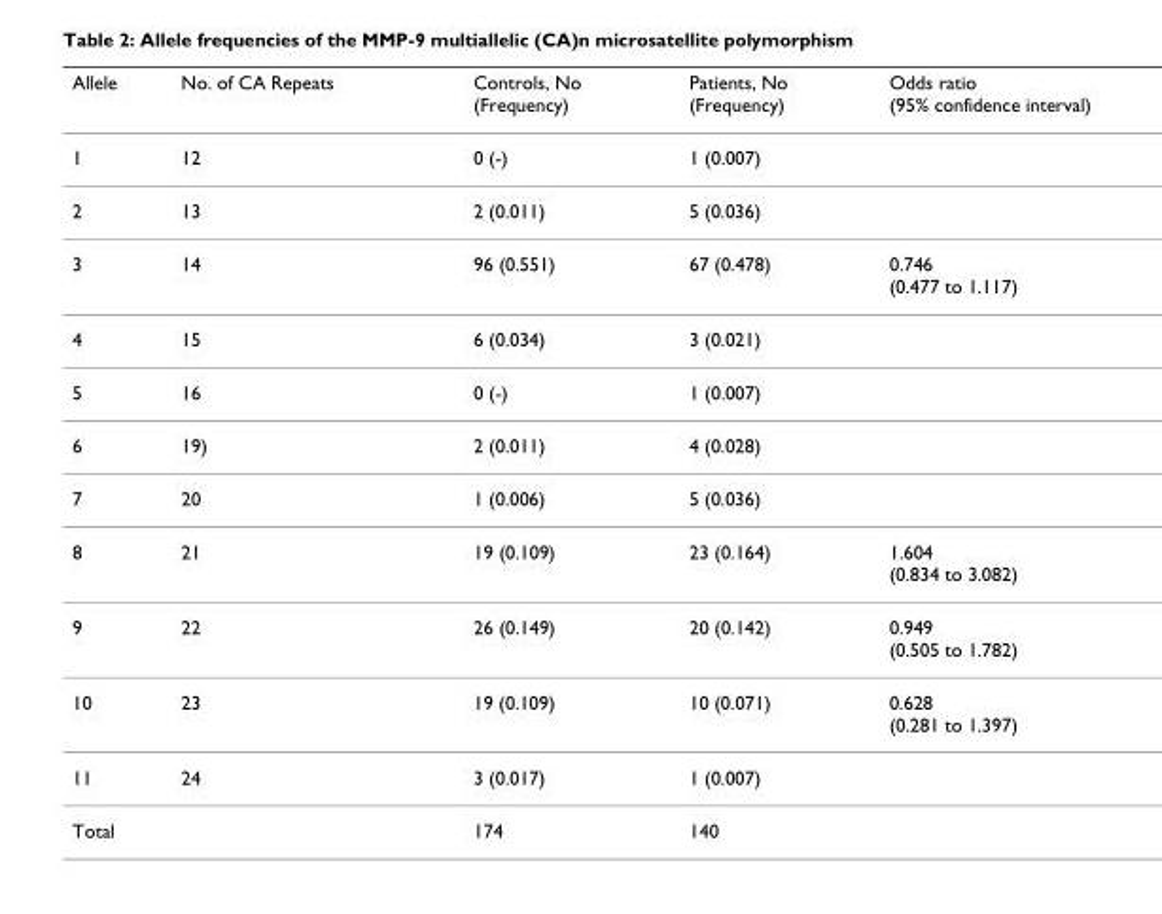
<table><thead><tr><td>Allele</td><td>No. of CA Repeats</td><td>Controls, No (Frequency)</td><td>Patients, No (Frequency)</td><td>Odds ratio (95% confidence interval)</td></tr></thead><tbody><tr><td>1</td><td>12</td><td>0 (-)</td><td>1 (0.007)</td><td></td></tr><tr><td>2</td><td>13</td><td>2 (0.011)</td><td>5 (0.036)</td><td></td></tr><tr><td>3</td><td>14</td><td>96 (0.551)</td><td>67 (0.478)</td><td>0.746 (0.477 to 1.117)</td></tr><tr><td>4</td><td>15</td><td>6 (0.034)</td><td>3 (0.021)</td><td></td></tr><tr><td>5</td><td>16</td><td>0 (-)</td><td>1 (0.007)</td><td></td></tr><tr><td>6</td><td>19)</td><td>2 (0.011)</td><td>4 (0.028)</td><td></td></tr><tr><td>7</td><td>20</td><td>1 (0.006)</td><td>5 (0.036)</td><td></td></tr><tr><td>8</td><td>21</td><td>19 (0.109)</td><td>23 (0.164)</td><td>1.604 (0.834 to 3.082)</td></tr><tr><td>9</td><td>22</td><td>26 (0.149)</td><td>20 (0.142)</td><td>0.949 (0.505 to 1.782)</td></tr><tr><td>10</td><td>23</td><td>19 (0.109)</td><td>10 (0.071)</td><td>0.628 (0.281 to 1.397)</td></tr><tr><td>11</td><td>24</td><td>3 (0.017)</td><td>1 (0.007)</td><td></td></tr><tr><td>Total</td><td></td><td>174</td><td>140</td><td></td></tr></tbody></table>